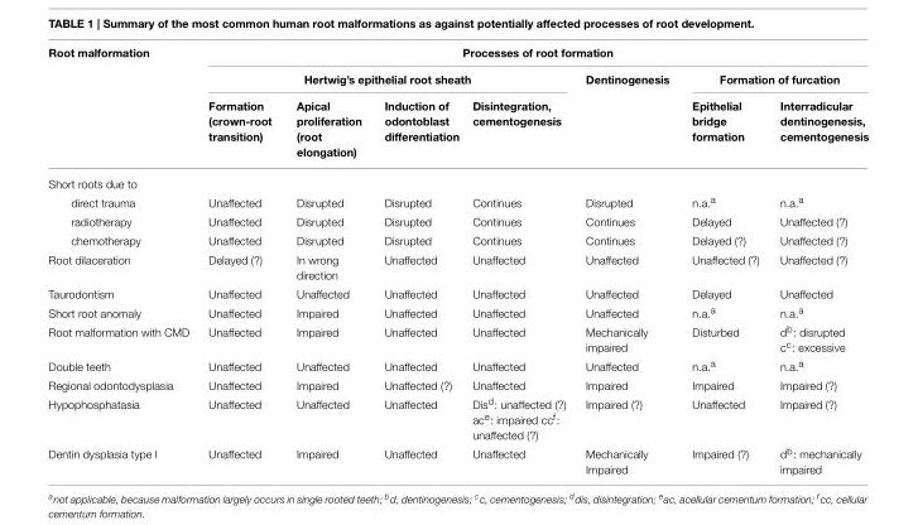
<table><thead><tr><td rowspan="3">Root malformation</td><td colspan="7">Processes of root formation</td></tr><tr><td colspan="4">Hertwig’s epithelial root sheath</td><td rowspan="2">Dentinogenesis</td><td colspan="2">Formation of furcation</td></tr><tr><td>Formation (crown-root transition)</td><td>Apical proliferation (root elongation)</td><td>Induction of odontoblast differentiation</td><td>Disintegration, cementogenesis</td><td>Epithelial bridge formation</td><td>Interradicular dentinogenesis, cementogenesis</td></tr></thead><tbody><tr><td colspan="8">Short roots due to</td></tr><tr><td>direct trauma</td><td>Unaffected</td><td>Disrupted</td><td>Disrupted</td><td>Continues</td><td>Disrupted</td><td>n.a.<sup>a</sup></td><td>n.a.<sup>a</sup></td></tr><tr><td>radiotherapy</td><td>Unaffected</td><td>Disrupted</td><td>Disrupted</td><td>Continues</td><td>Continues</td><td>Delayed</td><td>Unaffected (?)</td></tr><tr><td>chemotherapy</td><td>Unaffected</td><td>Disrupted</td><td>Disrupted</td><td>Continues</td><td>Continues</td><td>Delayed (?)</td><td>Unaffected (?)</td></tr><tr><td>Root dilaceration</td><td>Delayed (?)</td><td>In wrong direction</td><td>Unaffected</td><td>Unaffected</td><td>Unaffected</td><td>Unaffected (?)</td><td>Unaffected (?)</td></tr><tr><td>Taurodontism</td><td>Unaffected</td><td>Unaffected</td><td>Unaffected</td><td>Unaffected</td><td>Unaffected</td><td>Delayed</td><td>Unaffected</td></tr><tr><td>Short root anomaly</td><td>Unaffected</td><td>Impaired</td><td>Unaffected</td><td>Unaffected</td><td>Unaffected</td><td>n.a.<sup>a</sup></td><td>n.a.<sup>a</sup></td></tr><tr><td>Root malformation with CMD</td><td>Unaffected</td><td>Impaired</td><td>Unaffected</td><td>Unaffected</td><td>Mechanically impaired</td><td>Disturbed</td><td>d<sup>b</sup>: disrupted c<sup>c</sup>: excessive</td></tr><tr><td>Double teeth</td><td>Unaffected</td><td>Unaffected</td><td>Unaffected</td><td>Unaffected</td><td>Unaffected</td><td>n.a.<sup>a</sup></td><td>n.a.<sup>a</sup></td></tr><tr><td>Regional odontodysplasia</td><td>Unaffected</td><td>Impaired</td><td>Unaffected (?)</td><td>Unaffected</td><td>Impaired</td><td>Impaired</td><td>Impaired (?)</td></tr><tr><td>Hypophosphatasia</td><td>Unaffected</td><td>Unaffected</td><td>Unaffected</td><td>Dis<sup>d</sup>: unaffected (?) ac<sup>e</sup>: impaired cc<sup>f</sup>: unaffected (?)</td><td>Impaired (?)</td><td>Unaffected</td><td>Impaired (?)</td></tr><tr><td>Dentin dysplasia type I</td><td>Unaffected</td><td>Impaired</td><td>Unaffected</td><td>Unaffected</td><td>Mechanically Impaired</td><td>Impaired (?)</td><td>d<sup>b</sup>: mechanically impaired</td></tr></tbody></table>